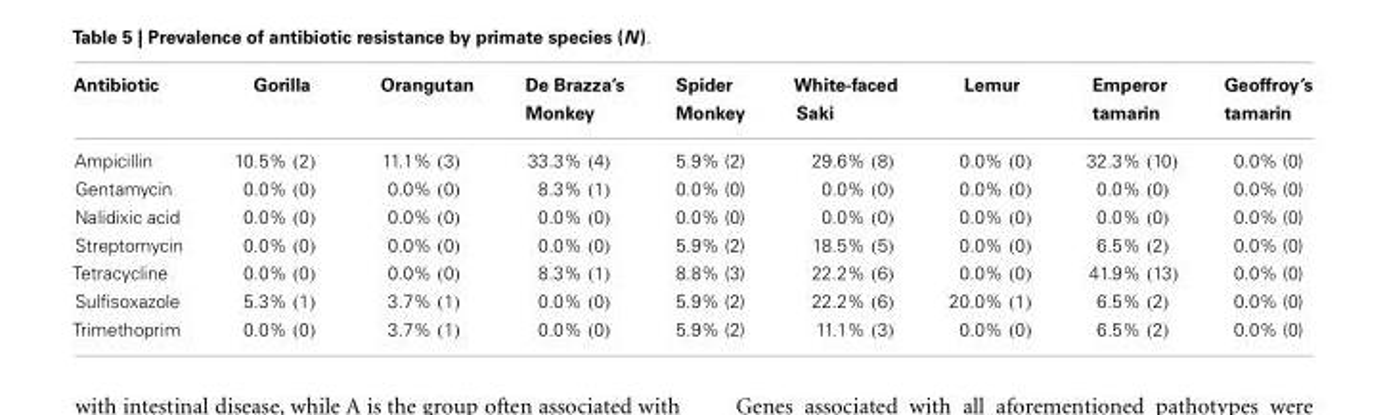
<table><thead><tr><td>Antibiotic</td><td>Gorilla</td><td>Orangutan</td><td>De Brazza’s Monkey</td><td>Spider Monkey</td><td>White-faced Saki</td><td>Lemur</td><td>Emperor tamarin</td><td>Geoffroy’s tamarin</td></tr></thead><tbody><tr><td>Ampicillin</td><td>10.5% (2)</td><td>11.1% (3)</td><td>33.3% (4)</td><td>5.9% (2)</td><td>29.6% (8)</td><td>0.0% (0)</td><td>32.3% (10)</td><td>0.0% (0)</td></tr><tr><td>Gentamycin</td><td>0.0% (0)</td><td>0.0% (0)</td><td>8.3% (1)</td><td>0.0% (0)</td><td>0.0% (0)</td><td>0.0% (0)</td><td>0.0% (0)</td><td>0.0% (0)</td></tr><tr><td>Nalidixic acid</td><td>0.0% (0)</td><td>0.0% (0)</td><td>0.0% (0)</td><td>0.0% (0)</td><td>0.0% (0)</td><td>0.0% (0)</td><td>0.0% (0)</td><td>0.0% (0)</td></tr><tr><td>Streptomycin</td><td>0.0% (0)</td><td>0.0% (0)</td><td>0.0% (0)</td><td>5.9% (2)</td><td>18.5% (5)</td><td>0.0% (0)</td><td>6.5% (2)</td><td>0.0% (0)</td></tr><tr><td>Tetracycline</td><td>0.0% (0)</td><td>0.0% (0)</td><td>8.3% (1)</td><td>8.8% (3)</td><td>22.2% (6)</td><td>0.0% (0)</td><td>41.9% (13)</td><td>0.0% (0)</td></tr><tr><td>Sulfisoxazole</td><td>5.3% (1)</td><td>3.7% (1)</td><td>0.0% (0)</td><td>5.9% (2)</td><td>22.2% (6)</td><td>20.0% (1)</td><td>6.5% (2)</td><td>0.0% (0)</td></tr><tr><td>Trimethoprim</td><td>0.0% (0)</td><td>3.7% (1)</td><td>0.0% (0)</td><td>5.9% (2)</td><td>11.1% (3)</td><td>0.0% (0)</td><td>6.5% (2)</td><td>0.0% (0)</td></tr></tbody></table>